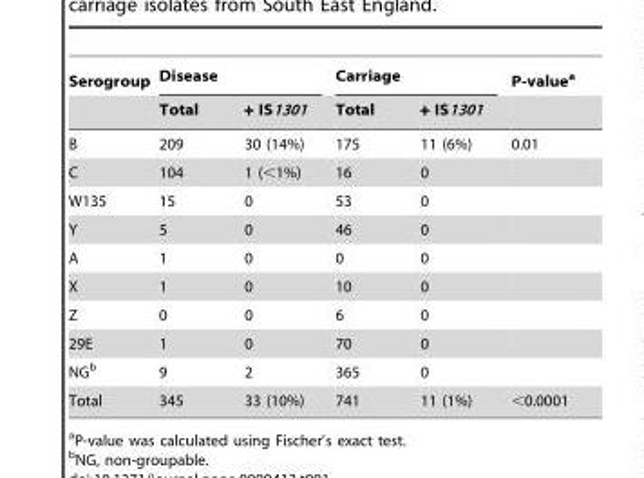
<table><thead><tr><td rowspan="2">Serogroup</td><td colspan="2">Disease</td><td colspan="2">Carriage</td><td rowspan="2">P-value<sup>a</sup></td></tr><tr><td>Total</td><td>+ IS1301</td><td>Total</td><td>+ IS1301</td></tr></thead><tbody><tr><td>B</td><td>209</td><td>30 (14%)</td><td>175</td><td>11 (6%)</td><td>0.01</td></tr><tr><td>C</td><td>104</td><td>1 (&lt;1%)</td><td>16</td><td>0</td><td></td></tr><tr><td>W135</td><td>15</td><td>0</td><td>53</td><td>0</td><td></td></tr><tr><td>Y</td><td>5</td><td>0</td><td>46</td><td>0</td><td></td></tr><tr><td>A</td><td>1</td><td>0</td><td>0</td><td>0</td><td></td></tr><tr><td>X</td><td>1</td><td>0</td><td>10</td><td>0</td><td></td></tr><tr><td>Z</td><td>0</td><td>0</td><td>6</td><td>0</td><td></td></tr><tr><td>29E</td><td>1</td><td>0</td><td>70</td><td>0</td><td></td></tr><tr><td>NG<sup>b</sup></td><td>9</td><td>2</td><td>365</td><td>0</td><td></td></tr><tr><td>Total</td><td>345</td><td>33 (10%)</td><td>741</td><td>11 (1%)</td><td>&lt;0.0001</td></tr></tbody></table>